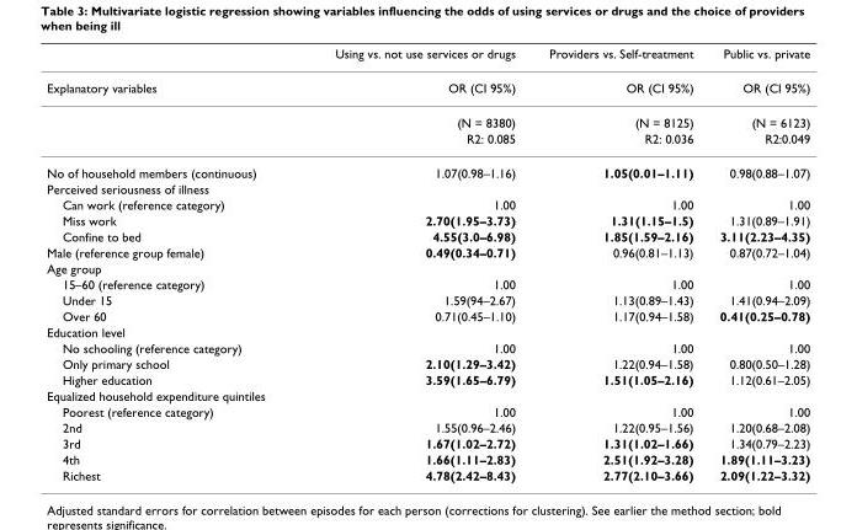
<table><thead><tr><td></td><td>Using vs. not use services or drugs</td><td>Providers vs. Self-treatment</td><td>Public vs. private</td></tr></thead><tbody><tr><td rowspan="3">Explanatory variables</td><td>OR (CI 95%)</td><td>OR (CI 95%)</td><td>OR (CI 95%)</td></tr><tr><td>(N = 8380)</td><td>(N = 8125)</td><td>(N = 6123)</td></tr><tr><td>R2: 0.085</td><td>R2: 0.036</td><td>R2:0.049</td></tr><tr><td>No of household members (continuous)</td><td>1.07(0.98–1.16)</td><td>1.05(0.01–1.11)</td><td>0.98(0.88–1.07)</td></tr><tr><td colspan="4">Perceived seriousness of illness</td></tr><tr><td>Can work (reference category)</td><td>1.00</td><td>1.00</td><td>1.00</td></tr><tr><td>Miss work</td><td>2.70(1.95–3.73)</td><td>1.31(1.15–1.5)</td><td>1.31(0.89–1.91)</td></tr><tr><td>Confine to bed</td><td>4.55(3.0–6.98)</td><td>1.85(1.59–2.16)</td><td>3.11(2.23–4.35)</td></tr><tr><td>Male (reference group female)</td><td>0.49(0.34–0.71)</td><td>0.96(0.81–1.13)</td><td>0.87(0.72–1.04)</td></tr><tr><td colspan="4">Age group</td></tr><tr><td>15–60 (reference category)</td><td>1.00</td><td>1.00</td><td>1.00</td></tr><tr><td>Under 15</td><td>1.59(94–2.67)</td><td>1.13(0.89–1.43)</td><td>1.41(0.94–2.09)</td></tr><tr><td>Over 60</td><td>0.71(0.45–1.10)</td><td>1.17(0.94–1.58)</td><td>0.41(0.25–0.78)</td></tr><tr><td colspan="4">Education level</td></tr><tr><td>No schooling (reference category)</td><td>1.00</td><td>1.00</td><td>1.00</td></tr><tr><td>Only primary school</td><td>2.10(1.29–3.42)</td><td>1.22(0.94–1.58)</td><td>0.80(0.50–1.28)</td></tr><tr><td>Higher education</td><td>3.59(1.65–6.79)</td><td>1.51(1.05–2.16)</td><td>1.12(0.61–2.05)</td></tr><tr><td colspan="4">Equalized household expenditure quintiles</td></tr><tr><td>Poorest (reference category)</td><td>1.00</td><td>1.00</td><td>1.00</td></tr><tr><td>2nd</td><td>1.55(0.96–2.46)</td><td>1.22(0.95–1.56)</td><td>1.20(0.68–2.08)</td></tr><tr><td>3rd</td><td>1.67(1.02–2.72)</td><td>1.31(1.02–1.66)</td><td>1.34(0.79–2.23)</td></tr><tr><td>4th</td><td>1.66(1.11–2.83)</td><td>2.51(1.92–3.28)</td><td>1.89(1.11–3.23)</td></tr><tr><td>Richest</td><td>4.78(2.42–8.43)</td><td>2.77(2.10–3.66)</td><td>2.09(1.22–3.32)</td></tr></tbody></table>